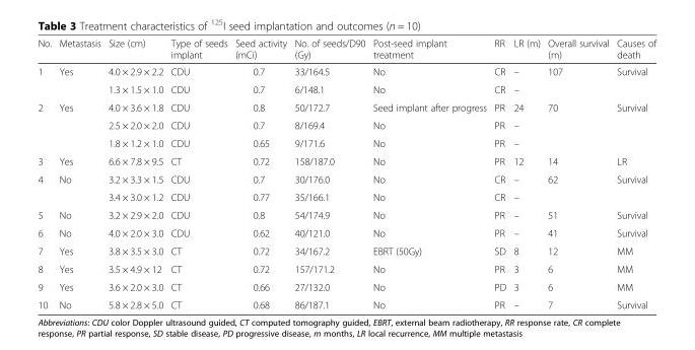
<table><thead><tr><td>No.</td><td>Metastasis</td><td>Size (cm)</td><td>Type of seeds implant</td><td>Seed activity (mCi)</td><td>No. of seeds/D90 (Gy)</td><td>Post-seed implant treatment</td><td>RR</td><td>LR (m)</td><td>Overall survival (m)</td><td>Causes of death</td></tr></thead><tbody><tr><td rowspan="2">1</td><td rowspan="2">Yes</td><td>4.0 × 2.9 × 2.2</td><td>CDU</td><td>0.7</td><td>33/164.5</td><td>No</td><td>CR</td><td>–</td><td rowspan="2">107</td><td rowspan="2">Survival</td></tr><tr><td>1.3 × 1.5 × 1.0</td><td>CDU</td><td>0.7</td><td>6/148.1</td><td>No</td><td>CR</td><td>–</td></tr><tr><td rowspan="3">2</td><td rowspan="3">Yes</td><td>4.0 × 3.6 × 1.8</td><td>CDU</td><td>0.8</td><td>50/172.7</td><td>Seed implant after progress</td><td>PR</td><td>24</td><td rowspan="3">70</td><td rowspan="3">Survival</td></tr><tr><td>2.5 × 2.0 × 2.0</td><td>CDU</td><td>0.7</td><td>8/169.4</td><td>No</td><td>PR</td><td>–</td></tr><tr><td>1.8 × 1.2 × 1.0</td><td>CDU</td><td>0.65</td><td>9/171.6</td><td>No</td><td>PR</td><td>–</td></tr><tr><td>3</td><td>Yes</td><td>6.6 × 7.8 × 9.5</td><td>CT</td><td>0.72</td><td>158/187.0</td><td>No</td><td>PR</td><td>12</td><td>14</td><td>LR</td></tr><tr><td rowspan="2">4</td><td rowspan="2">No</td><td>3.2 × 3.3 × 1.5</td><td>CDU</td><td>0.7</td><td>30/176.0</td><td>No</td><td>CR</td><td>–</td><td rowspan="2">62</td><td rowspan="2">Survival</td></tr><tr><td>3.4 × 3.0 × 1.2</td><td>CDU</td><td>0.77</td><td>35/166.1</td><td>No</td><td>CR</td><td>–</td></tr><tr><td>5</td><td>No</td><td>3.2 × 2.9 × 2.0</td><td>CDU</td><td>0.8</td><td>54/174.9</td><td>No</td><td>PR</td><td>–</td><td>51</td><td>Survival</td></tr><tr><td>6</td><td>No</td><td>4.0 × 2.0 × 3.0</td><td>CDU</td><td>0.62</td><td>40/121.0</td><td>No</td><td>PR</td><td>–</td><td>41</td><td>Survival</td></tr><tr><td>7</td><td>Yes</td><td>3.8 × 3.5 × 3.0</td><td>CT</td><td>0.72</td><td>34/167.2</td><td>EBRT (50Gy)</td><td>SD</td><td>8</td><td>12</td><td>MM</td></tr><tr><td>8</td><td>Yes</td><td>3.5 × 4.9 × 12</td><td>CT</td><td>0.72</td><td>157/171.2</td><td>No</td><td>PR</td><td>3</td><td>6</td><td>MM</td></tr><tr><td>9</td><td>Yes</td><td>3.6 × 2.0 × 3.0</td><td>CT</td><td>0.66</td><td>27/132.0</td><td>No</td><td>PD</td><td>3</td><td>6</td><td>MM</td></tr><tr><td>10</td><td>No</td><td>5.8 × 2.8 × 5.0</td><td>CT</td><td>0.68</td><td>86/187.1</td><td>No</td><td>PR</td><td>–</td><td>7</td><td>Survival</td></tr></tbody></table>